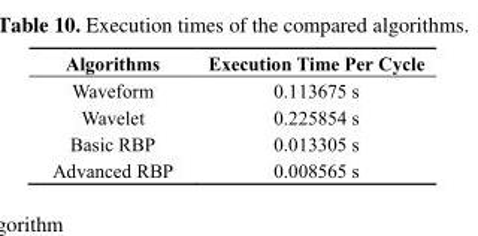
<table><thead><tr><td>Algorithms</td><td>Execution Time Per Cycle</td></tr></thead><tbody><tr><td>Waveform</td><td>0.113675 s</td></tr><tr><td>Wavelet</td><td>0.225854 s</td></tr><tr><td>Basic RBP</td><td>0.013305 s</td></tr><tr><td>Advanced RBP</td><td>0.008565 s</td></tr></tbody></table>